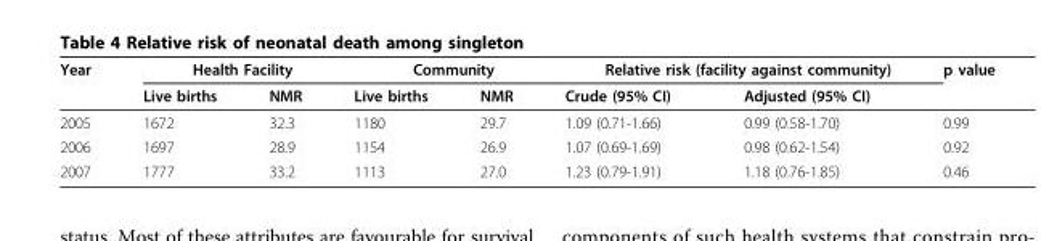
<table><thead><tr><td rowspan="2">Year</td><td colspan="2">Health Facility</td><td colspan="2">Community</td><td colspan="2">Relative risk (facility against community)</td><td rowspan="2">p value</td></tr><tr><td>Live births</td><td>NMR</td><td>Live births</td><td>NMR</td><td>Crude (95% CI)</td><td>Adjusted (95% CI)</td></tr></thead><tbody><tr><td>2005</td><td>1672</td><td>32.3</td><td>1180</td><td>29.7</td><td>1.09 (0.71-1.66)</td><td>0.99 (0.58-1.70)</td><td>0.99</td></tr><tr><td>2006</td><td>1697</td><td>28.9</td><td>1154</td><td>26.9</td><td>1.07 (0.69-1.69)</td><td>0.98 (0.62-1.54)</td><td>0.92</td></tr><tr><td>2007</td><td>1777</td><td>33.2</td><td>1113</td><td>27.0</td><td>1.23 (0.79-1.91)</td><td>1.18 (0.76-1.85)</td><td>0.46</td></tr></tbody></table>